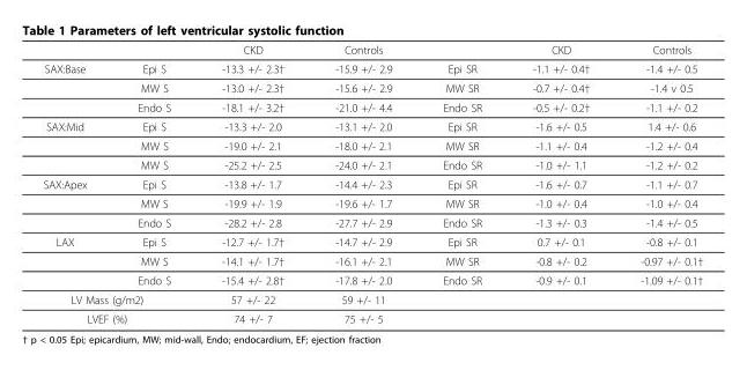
<table><thead><tr><td></td><td></td><td>CKD</td><td>Controls</td><td></td><td>CKD</td><td>Controls</td></tr></thead><tbody><tr><td rowspan="3">SAX:Base</td><td>Epi S</td><td>-13.3 +/- 2.3†</td><td>-15.9 +/- 2.9</td><td>Epi SR</td><td>-1.1 +/- 0.4†</td><td>-1.4 +/- 0.5</td></tr><tr><td>MW S</td><td>-13.0 +/- 2.3†</td><td>-15.6 +/- 2.9</td><td>MW SR</td><td>-0.7 +/- 0.4†</td><td>-1.4 v 0.5</td></tr><tr><td>Endo S</td><td>-18.1 +/- 3.2†</td><td>-21.0 +/- 4.4</td><td>Endo SR</td><td>-0.5 +/- 0.2†</td><td>-1.1 +/- 0.2</td></tr><tr><td rowspan="3">SAX:Mid</td><td>Epi S</td><td>-13.3 +/- 2.0</td><td>-13.1 +/- 2.0</td><td>Epi SR</td><td>-1.6 +/- 0.5</td><td>1.4 +/- 0.6</td></tr><tr><td>MW S</td><td>-19.0 +/- 2.1</td><td>-18.0 +/- 2.1</td><td>MW SR</td><td>-1.1 +/- 0.4</td><td>-1.2 +/- 0.4</td></tr><tr><td>MW S</td><td>-25.2 +/- 2.5</td><td>-24.0 +/- 2.1</td><td>Endo SR</td><td>-1.0 +/- 1.1</td><td>-1.2 +/- 0.2</td></tr><tr><td rowspan="3">SAX:Apex</td><td>Epi S</td><td>-13.8 +/- 1.7</td><td>-14.4 +/- 2.3</td><td>Epi SR</td><td>-1.6 +/- 0.7</td><td>-1.1 +/- 0.7</td></tr><tr><td>MW S</td><td>-19.9 +/- 1.9</td><td>-19.6 +/- 1.7</td><td>MW SR</td><td>-1.0 +/- 0.4</td><td>-1.0 +/- 0.4</td></tr><tr><td>Endo S</td><td>-28.2 +/- 2.8</td><td>-27.7 +/- 2.9</td><td>Endo SR</td><td>-1.3 +/- 0.3</td><td>-1.4 +/- 0.5</td></tr><tr><td rowspan="3">LAX</td><td>Epi S</td><td>-12.7 +/- 1.7†</td><td>-14.7 +/- 2.9</td><td>Epi SR</td><td>0.7 +/- 0.1</td><td>-0.8 +/- 0.1</td></tr><tr><td>MW S</td><td>-14.1 +/- 1.7†</td><td>-16.1 +/- 2.1</td><td>MW SR</td><td>-0.8 +/- 0.2</td><td>-0.97 +/- 0.1†</td></tr><tr><td>Endo S</td><td>-15.4 +/- 2.8†</td><td>-17.8 +/- 2.0</td><td>Endo SR</td><td>-0.9 +/- 0.1</td><td>-1.09 +/- 0.1†</td></tr><tr><td colspan="2">LV Mass (g/m2)</td><td>57 +/- 22</td><td>59 +/- 11</td><td></td><td></td><td></td></tr><tr><td colspan="2">LVEF (%)</td><td>74 +/- 7</td><td>75 +/- 5</td><td></td><td></td><td></td></tr></tbody></table>